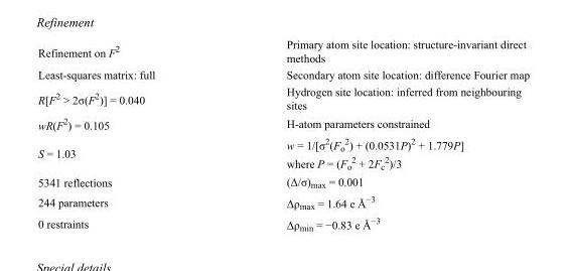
<table><tbody><tr><td>Refinement on F<sup>2</sup></td><td>Primary atom site location: structure-invariant direct methods</td></tr><tr><td>Least-squares matrix: full</td><td>Secondary atom site location: difference Fourier map</td></tr><tr><td>R[F<sup>2</sup> &gt; 2σ(F<sup>2</sup>)] = 0.040</td><td>Hydrogen site location: inferred from neighbouring sites</td></tr><tr><td>wR(F<sup>2</sup>) = 0.105</td><td>H-atom parameters constrained</td></tr><tr><td>S = 1.03</td><td>w = 1/[σ<sup>2</sup>(F<sub>o</sub> <sup>2</sup>) + (0.0531P)<sup>2</sup> + 1.779P] where P = (F<sub>o</sub> <sup>2</sup> + 2F<sub>c</sub> <sup>2</sup>)/3</td></tr><tr><td>5341 reflections</td><td>(Δ/σ)<sub>max</sub> = 0.001</td></tr><tr><td>244 parameters</td><td>Δρ<sub>max</sub> = 1.64 e Å<sup>−3</sup></td></tr><tr><td>0 restraints</td><td>Δρ<sub>min</sub> = −0.83 e Å<sup>−3</sup></td></tr></tbody></table>